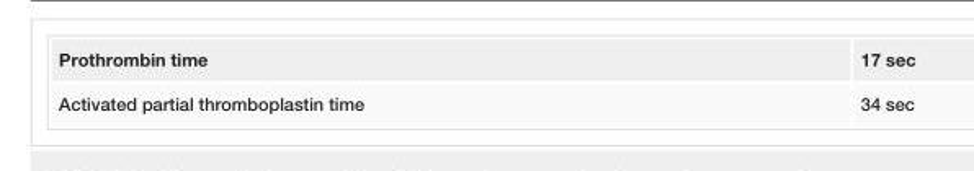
<table><tbody><tr><td>Prothrombin time</td><td>17 sec</td></tr><tr><td>Activated partial thromboplastin time</td><td>34 sec</td></tr></tbody></table>